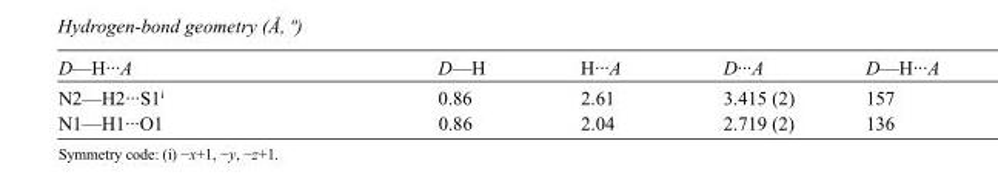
<table><tbody><tr><td>D—H···A</td><td>D—H</td><td>H···A</td><td>D···A</td><td>D—H···A</td></tr><tr><td>N2—H2···S1<sup>i</sup></td><td>0.86</td><td>2.61</td><td>3.415 (2)</td><td>157</td></tr><tr><td>N1—H1···O1</td><td>0.86</td><td>2.04</td><td>2.719 (2)</td><td>136</td></tr></tbody></table>